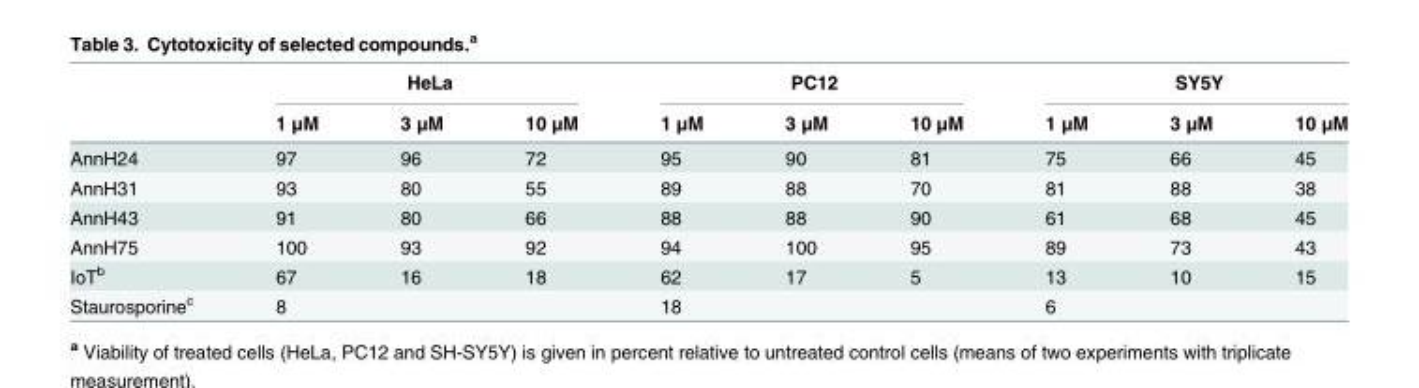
<table><thead><tr><td rowspan="2"></td><td colspan="3">HeLa</td><td colspan="3">PC12</td><td colspan="3">SY5Y</td></tr><tr><td>1 μM</td><td>3 μM</td><td>10 μM</td><td>1 μM</td><td>3 μM</td><td>10 μM</td><td>1 μM</td><td>3 μM</td><td>10 μM</td></tr></thead><tbody><tr><td>AnnH24</td><td>97</td><td>96</td><td>72</td><td>95</td><td>90</td><td>81</td><td>75</td><td>66</td><td>45</td></tr><tr><td>AnnH31</td><td>93</td><td>80</td><td>55</td><td>89</td><td>88</td><td>70</td><td>81</td><td>88</td><td>38</td></tr><tr><td>AnnH43</td><td>91</td><td>80</td><td>66</td><td>88</td><td>88</td><td>90</td><td>61</td><td>68</td><td>45</td></tr><tr><td>AnnH75</td><td>100</td><td>93</td><td>92</td><td>94</td><td>100</td><td>95</td><td>89</td><td>73</td><td>43</td></tr><tr><td>IoT<sup>b</sup></td><td>67</td><td>16</td><td>18</td><td>62</td><td>17</td><td>5</td><td>13</td><td>10</td><td>15</td></tr><tr><td>Staurosporine<sup>c</sup></td><td>8</td><td></td><td></td><td>18</td><td></td><td></td><td>6</td><td></td><td></td></tr></tbody></table>